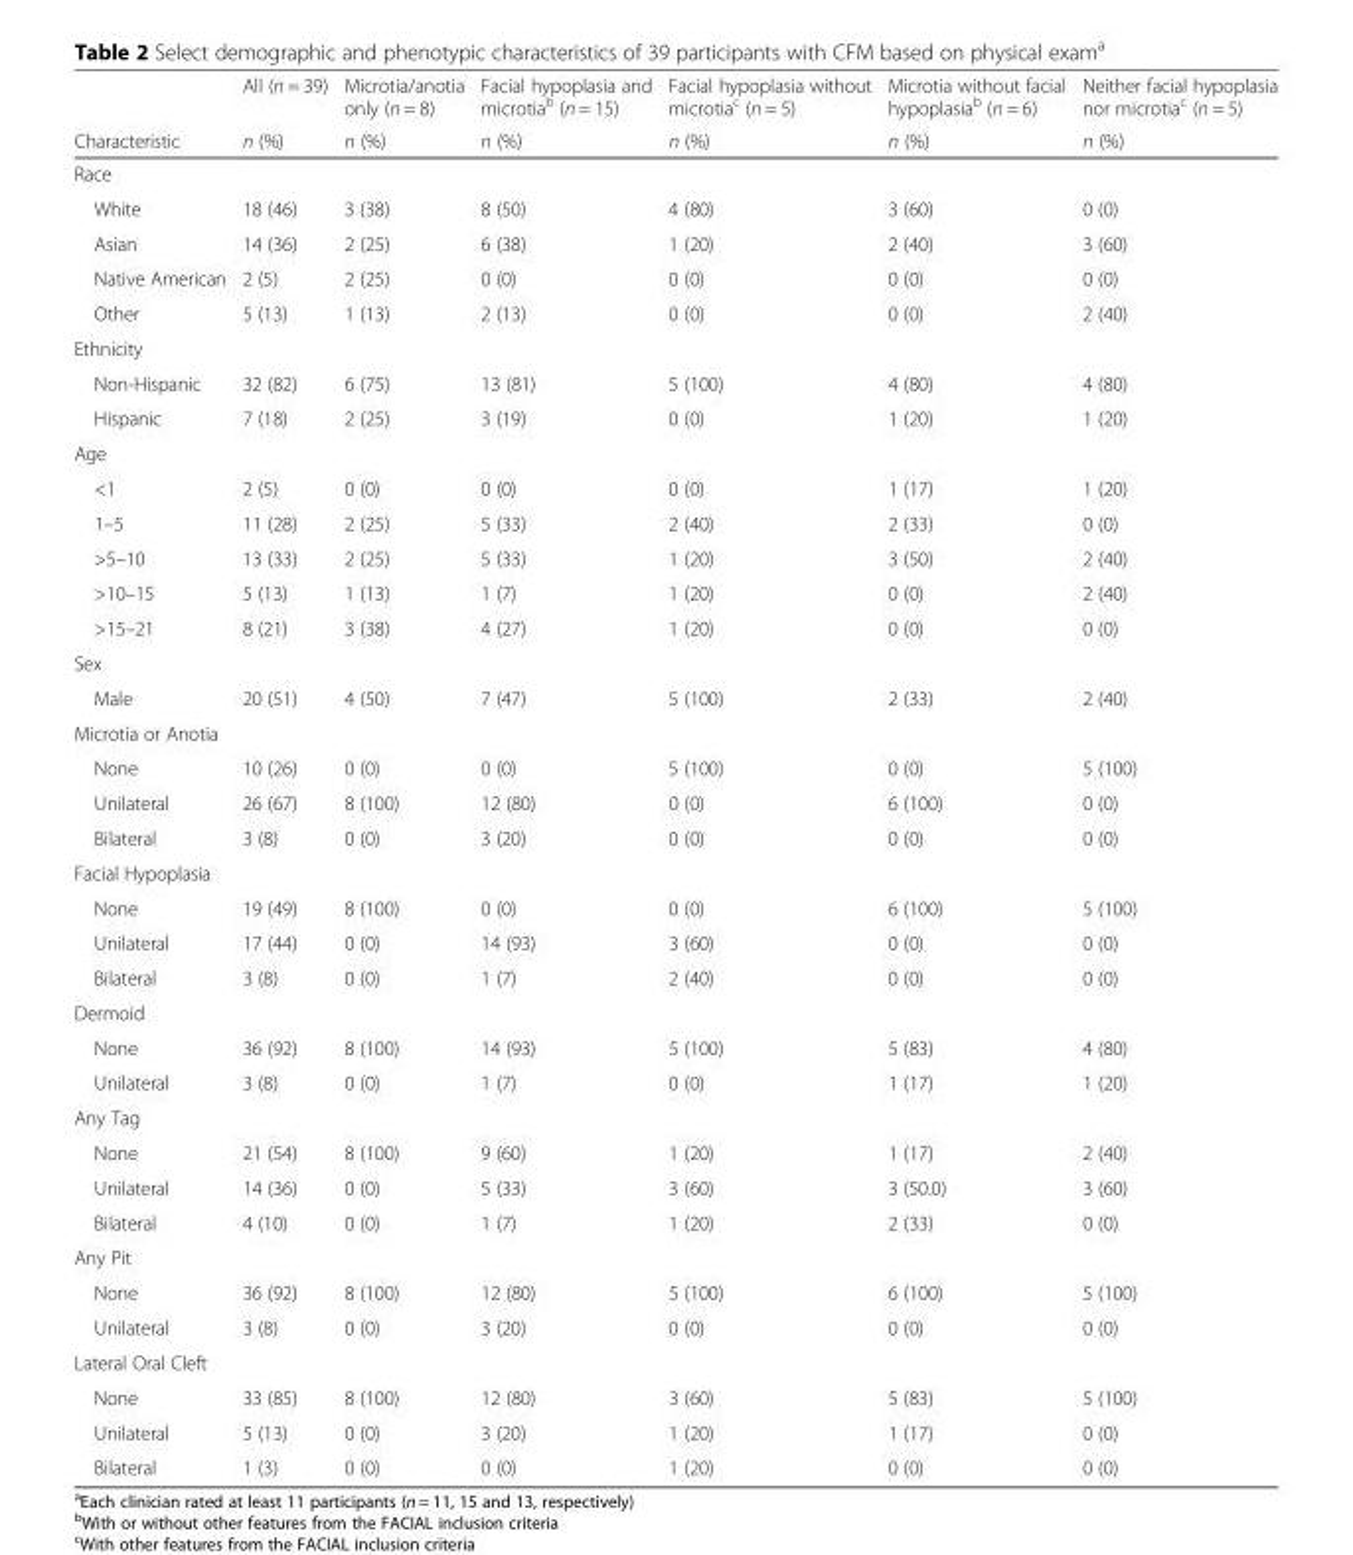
<table><thead><tr><td rowspan="2">Characteristic</td><td rowspan="2">All (n = 39) n (%)</td><td rowspan="2">Microtia/anotia only (n = 8) n (%)</td><td rowspan="2">Facial hypoplasia and microtia<sup>b</sup> (n = 15) n (%)</td><td rowspan="2">Facial hypoplasia without microtia<sup>c</sup> (n = 5) n (%)</td><td rowspan="2">Microtia without facial hypoplasia<sup>b</sup> (n = 6) n (%)</td><td rowspan="2">Neither facial hypoplasia nor microtia<sup>c</sup> (n = 5) n (%)</td></tr><tr></tr></thead><tbody><tr><td colspan="7">Race</td></tr><tr><td>White</td><td>18 (46)</td><td>3 (38)</td><td>8 (50)</td><td>4 (80)</td><td>3 (60)</td><td>0 (0)</td></tr><tr><td>Asian</td><td>14 (36)</td><td>2 (25)</td><td>6 (38)</td><td>1 (20)</td><td>2 (40)</td><td>3 (60)</td></tr><tr><td>Native American</td><td>2 (5)</td><td>2 (25)</td><td>0 (0)</td><td>0 (0)</td><td>0 (0)</td><td>0 (0)</td></tr><tr><td>Other</td><td>5 (13)</td><td>1 (13)</td><td>2 (13)</td><td>0 (0)</td><td>0 (0)</td><td>2 (40)</td></tr><tr><td colspan="7">Ethnicity</td></tr><tr><td>Non-Hispanic</td><td>32 (82)</td><td>6 (75)</td><td>13 (81)</td><td>5 (100)</td><td>4 (80)</td><td>4 (80)</td></tr><tr><td>Hispanic</td><td>7 (18)</td><td>2 (25)</td><td>3 (19)</td><td>0 (0)</td><td>1 (20)</td><td>1 (20)</td></tr><tr><td colspan="7">Age</td></tr><tr><td>&lt;1</td><td>2 (5)</td><td>0 (0)</td><td>0 (0)</td><td>0 (0)</td><td>1 (17)</td><td>1 (20)</td></tr><tr><td>1–5</td><td>11 (28)</td><td>2 (25)</td><td>5 (33)</td><td>2 (40)</td><td>2 (33)</td><td>0 (0)</td></tr><tr><td>&gt;5–10</td><td>13 (33)</td><td>2 (25)</td><td>5 (33)</td><td>1 (20)</td><td>3 (50)</td><td>2 (40)</td></tr><tr><td>&gt;10–15</td><td>5 (13)</td><td>1 (13)</td><td>1 (7)</td><td>1 (20)</td><td>0 (0)</td><td>2 (40)</td></tr><tr><td>&gt;15–21</td><td>8 (21)</td><td>3 (38)</td><td>4 (27)</td><td>1 (20)</td><td>0 (0)</td><td>0 (0)</td></tr><tr><td colspan="7">Sex</td></tr><tr><td>Male</td><td>20 (51)</td><td>4 (50)</td><td>7 (47)</td><td>5 (100)</td><td>2 (33)</td><td>2 (40)</td></tr><tr><td colspan="7">Microtia or Anotia</td></tr><tr><td>None</td><td>10 (26)</td><td>0 (0)</td><td>0 (0)</td><td>5 (100)</td><td>0 (0)</td><td>5 (100)</td></tr><tr><td>Unilateral</td><td>26 (67)</td><td>8 (100)</td><td>12 (80)</td><td>0 (0)</td><td>6 (100)</td><td>0 (0)</td></tr><tr><td>Bilateral</td><td>3 (8)</td><td>0 (0)</td><td>3 (20)</td><td>0 (0)</td><td>0 (0)</td><td>0 (0)</td></tr><tr><td colspan="7">Facial Hypoplasia</td></tr><tr><td>None</td><td>19 (49)</td><td>8 (100)</td><td>0 (0)</td><td>0 (0)</td><td>6 (100)</td><td>5 (100)</td></tr><tr><td>Unilateral</td><td>17 (44)</td><td>0 (0)</td><td>14 (93)</td><td>3 (60)</td><td>0 (0)</td><td>0 (0)</td></tr><tr><td>Bilateral</td><td>3 (8)</td><td>0 (0)</td><td>1 (7)</td><td>2 (40)</td><td>0 (0)</td><td>0 (0)</td></tr><tr><td colspan="7">Dermoid</td></tr><tr><td>None</td><td>36 (92)</td><td>8 (100)</td><td>14 (93)</td><td>5 (100)</td><td>5 (83)</td><td>4 (80)</td></tr><tr><td>Unilateral</td><td>3 (8)</td><td>0 (0)</td><td>1 (7)</td><td>0 (0)</td><td>1 (17)</td><td>1 (20)</td></tr><tr><td colspan="7">Any Tag</td></tr><tr><td>None</td><td>21 (54)</td><td>8 (100)</td><td>9 (60)</td><td>1 (20)</td><td>1 (17)</td><td>2 (40)</td></tr><tr><td>Unilateral</td><td>14 (36)</td><td>0 (0)</td><td>5 (33)</td><td>3 (60)</td><td>3 (50.0)</td><td>3 (60)</td></tr><tr><td>Bilateral</td><td>4 (10)</td><td>0 (0)</td><td>1 (7)</td><td>1 (20)</td><td>2 (33)</td><td>0 (0)</td></tr><tr><td colspan="7">Any Pit</td></tr><tr><td>None</td><td>36 (92)</td><td>8 (100)</td><td>12 (80)</td><td>5 (100)</td><td>6 (100)</td><td>5 (100)</td></tr><tr><td>Unilateral</td><td>3 (8)</td><td>0 (0)</td><td>3 (20)</td><td>0 (0)</td><td>0 (0)</td><td>0 (0)</td></tr><tr><td colspan="7">Lateral Oral Cleft</td></tr><tr><td>None</td><td>33 (85)</td><td>8 (100)</td><td>12 (80)</td><td>3 (60)</td><td>5 (83)</td><td>5 (100)</td></tr><tr><td>Unilateral</td><td>5 (13)</td><td>0 (0)</td><td>3 (20)</td><td>1 (20)</td><td>1 (17)</td><td>0 (0)</td></tr><tr><td>Bilateral</td><td>1 (3)</td><td>0 (0)</td><td>0 (0)</td><td>1 (20)</td><td>0 (0)</td><td>0 (0)</td></tr></tbody></table>